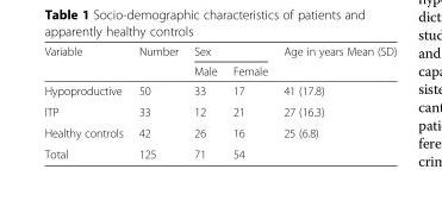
<table><thead><tr><td rowspan="2">Variable</td><td rowspan="2">Number</td><td colspan="2">Sex</td><td rowspan="2">Age in years Mean (SD)</td></tr><tr><td>Male</td><td>Female</td></tr></thead><tbody><tr><td>Hypoproductive</td><td>50</td><td>33</td><td>17</td><td>41 (17.8)</td></tr><tr><td>ITP</td><td>33</td><td>12</td><td>21</td><td>27 (16.3)</td></tr><tr><td>Healthy controls</td><td>42</td><td>26</td><td>16</td><td>25 (6.8)</td></tr><tr><td>Total</td><td>125</td><td>71</td><td>54</td><td></td></tr></tbody></table>